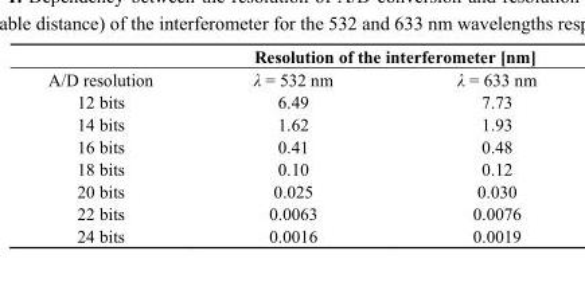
<table><thead><tr><td rowspan="2">A/D resolution</td><td colspan="2">Resolution of the interferometer [nm]</td></tr><tr><td>λ = 532 nm</td><td>λ = 633 nm</td></tr></thead><tbody><tr><td>12 bits</td><td>6.49</td><td>7.73</td></tr><tr><td>14 bits</td><td>1.62</td><td>1.93</td></tr><tr><td>16 bits</td><td>0.41</td><td>0.48</td></tr><tr><td>18 bits</td><td>0.10</td><td>0.12</td></tr><tr><td>20 bits</td><td>0.025</td><td>0.030</td></tr><tr><td>22 bits</td><td>0.0063</td><td>0.0076</td></tr><tr><td>24 bits</td><td>0.0016</td><td>0.0019</td></tr></tbody></table>